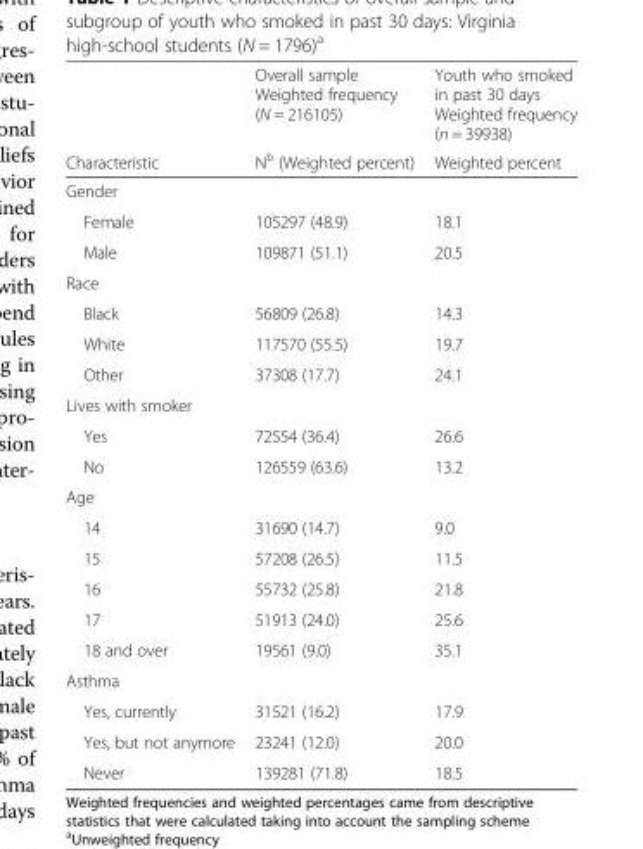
<table><thead><tr><td rowspan="2">Characteristic</td><td rowspan="2">Overall sample Weighted frequency (N = 216105) N<sup>b</sup> (Weighted percent)</td><td rowspan="2">Youth who smoked in past 30 days Weighted frequency (n = 39938) Weighted percent</td></tr><tr></tr></thead><tbody><tr><td colspan="3">Gender</td></tr><tr><td>Female</td><td>105297 (48.9)</td><td>18.1</td></tr><tr><td>Male</td><td>109871 (51.1)</td><td>20.5</td></tr><tr><td colspan="3">Race</td></tr><tr><td>Black</td><td>56809 (26.8)</td><td>14.3</td></tr><tr><td>White</td><td>117570 (55.5)</td><td>19.7</td></tr><tr><td>Other</td><td>37308 (17.7)</td><td>24.1</td></tr><tr><td colspan="3">Lives with smoker</td></tr><tr><td>Yes</td><td>72554 (36.4)</td><td>26.6</td></tr><tr><td>No</td><td>126559 (63.6)</td><td>13.2</td></tr><tr><td colspan="3">Age</td></tr><tr><td>14</td><td>31690 (14.7)</td><td>9.0</td></tr><tr><td>15</td><td>57208 (26.5)</td><td>11.5</td></tr><tr><td>16</td><td>55732 (25.8)</td><td>21.8</td></tr><tr><td>17</td><td>51913 (24.0)</td><td>25.6</td></tr><tr><td>18 and over</td><td>19561 (9.0)</td><td>35.1</td></tr><tr><td colspan="3">Asthma</td></tr><tr><td>Yes, currently</td><td>31521 (16.2)</td><td>17.9</td></tr><tr><td>Yes, but not anymore</td><td>23241 (12.0)</td><td>20.0</td></tr><tr><td>Never</td><td>139281 (71.8)</td><td>18.5</td></tr></tbody></table>